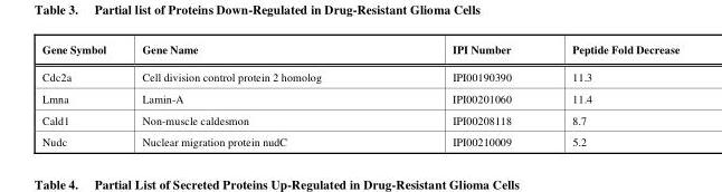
<table><thead><tr><td>Gene Symbol</td><td>Gene Name</td><td>IPI Number</td><td>Peptide Fold Decrease</td></tr></thead><tbody><tr><td>Cdc2a</td><td>Cell division control protein 2 homolog</td><td>IPI00190390</td><td>11.3</td></tr><tr><td>Lmna</td><td>Lamin-A</td><td>IPI00201060</td><td>11.4</td></tr><tr><td>Cald1</td><td>Non-muscle caldesmon</td><td>IPI00208118</td><td>8.7</td></tr><tr><td>Nudc</td><td>Nuclear migration protein nudC</td><td>IPI00210009</td><td>5.2</td></tr></tbody></table>